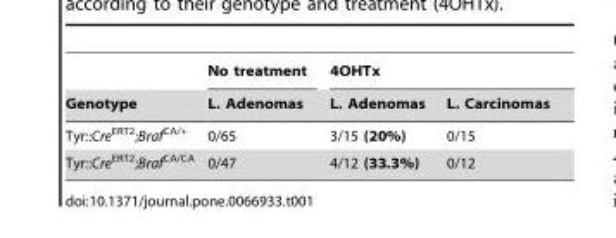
<table><thead><tr><td rowspan="2">Genotype</td><td rowspan="2">No treatment L. Adenomas</td><td colspan="2">4OHTx</td></tr><tr><td>L. Adenomas</td><td>L. Carcinomas</td></tr></thead><tbody><tr><td>Tyr::Cre<sup>ERT2</sup>;Braf<sup>CA/+</sup></td><td>0/65</td><td>3/15 (20%)</td><td>0/15</td></tr><tr><td>Tyr::Cre<sup>ERT2</sup>;Braf<sup>CA/CA</sup></td><td>0/47</td><td>4/12 (33.3%)</td><td>0/12</td></tr></tbody></table>